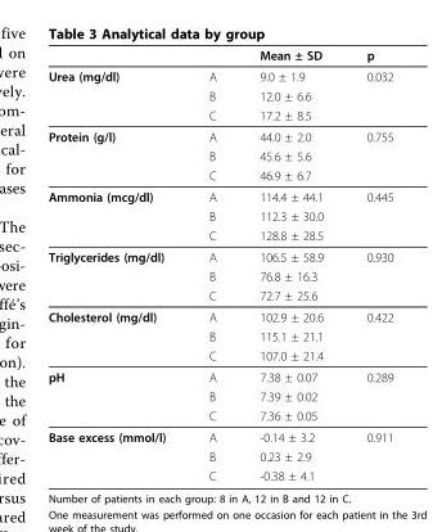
<table><thead><tr><td></td><td></td><td>Mean ± SD</td><td>p</td></tr></thead><tbody><tr><td rowspan="3">Urea (mg/dl)</td><td>A</td><td>9.0 ± 1.9</td><td>0.032</td></tr><tr><td>B</td><td>12.0 ± 6.6</td><td></td></tr><tr><td>C</td><td>17.2 ± 8.5</td><td></td></tr><tr><td rowspan="3">Protein (g/l)</td><td>A</td><td>44.0 ± 2.0</td><td>0.755</td></tr><tr><td>B</td><td>45.6 ± 5.6</td><td></td></tr><tr><td>C</td><td>46.9 ± 6.7</td><td></td></tr><tr><td rowspan="3">Ammonia (mcg/dl)</td><td>A</td><td>114.4 ± 44.1</td><td>0.445</td></tr><tr><td>B</td><td>112.3 ± 30.0</td><td></td></tr><tr><td>C</td><td>128.8 ± 28.5</td><td></td></tr><tr><td rowspan="3">Triglycerides (mg/dl)</td><td>A</td><td>106.5 ± 58.9</td><td>0.930</td></tr><tr><td>B</td><td>76.8 ± 16.3</td><td></td></tr><tr><td>C</td><td>72.7 ± 25.6</td><td></td></tr><tr><td rowspan="3">Cholesterol (mg/dl)</td><td>A</td><td>102.9 ± 20.6</td><td>0.422</td></tr><tr><td>B</td><td>115.1 ± 21.1</td><td></td></tr><tr><td>C</td><td>107.0 ± 21.4</td><td></td></tr><tr><td rowspan="3">pH</td><td>A</td><td>7.38 ± 0.07</td><td>0.289</td></tr><tr><td>B</td><td>7.39 ± 0.02</td><td></td></tr><tr><td>C</td><td>7.36 ± 0.05</td><td></td></tr><tr><td rowspan="3">Base excess (mmol/l)</td><td>A</td><td>-0.14 ± 3.2</td><td>0.911</td></tr><tr><td>B</td><td>0.23 ± 2.9</td><td></td></tr><tr><td>C</td><td>-0.38 ± 4.1</td><td></td></tr></tbody></table>